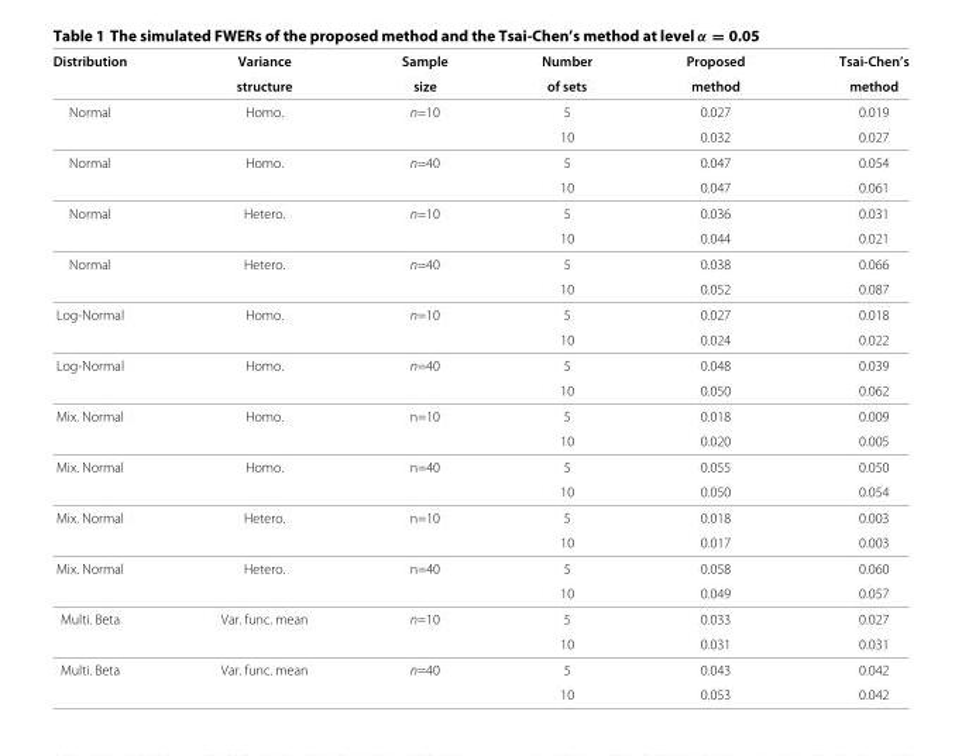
<table><thead><tr><td rowspan="2">Distribution</td><td rowspan="2">Variance structure</td><td rowspan="2">Sample size</td><td rowspan="2">Number of sets</td><td rowspan="2">Proposed method</td><td rowspan="2">Tsai-Chen’s method</td></tr><tr></tr></thead><tbody><tr><td rowspan="2">Normal</td><td>Homo.</td><td>n=10</td><td>5</td><td>0.027</td><td>0.019</td></tr><tr><td></td><td></td><td>10</td><td>0.032</td><td>0.027</td></tr><tr><td rowspan="2">Normal</td><td>Homo.</td><td>n=40</td><td>5</td><td>0.047</td><td>0.054</td></tr><tr><td></td><td></td><td>10</td><td>0.047</td><td>0.061</td></tr><tr><td rowspan="2">Normal</td><td>Hetero.</td><td>n=10</td><td>5</td><td>0.036</td><td>0.031</td></tr><tr><td></td><td></td><td>10</td><td>0.044</td><td>0.021</td></tr><tr><td rowspan="2">Normal</td><td>Hetero.</td><td>n=40</td><td>5</td><td>0.038</td><td>0.066</td></tr><tr><td></td><td></td><td>10</td><td>0.052</td><td>0.087</td></tr><tr><td rowspan="2">Log-Normal</td><td>Homo.</td><td>n=10</td><td>5</td><td>0.027</td><td>0.018</td></tr><tr><td></td><td></td><td>10</td><td>0.024</td><td>0.022</td></tr><tr><td rowspan="2">Log-Normal</td><td>Homo.</td><td>n=40</td><td>5</td><td>0.048</td><td>0.039</td></tr><tr><td></td><td></td><td>10</td><td>0.050</td><td>0.062</td></tr><tr><td rowspan="2">Mix. Normal</td><td>Homo.</td><td>n=10</td><td>5</td><td>0.018</td><td>0.009</td></tr><tr><td></td><td></td><td>10</td><td>0.020</td><td>0.005</td></tr><tr><td rowspan="2">Mix. Normal</td><td>Homo.</td><td>n=40</td><td>5</td><td>0.055</td><td>0.050</td></tr><tr><td></td><td></td><td>10</td><td>0.050</td><td>0.054</td></tr><tr><td rowspan="2">Mix. Normal</td><td>Hetero.</td><td>n=10</td><td>5</td><td>0.018</td><td>0.003</td></tr><tr><td></td><td></td><td>10</td><td>0.017</td><td>0.003</td></tr><tr><td rowspan="2">Mix. Normal</td><td>Hetero.</td><td>n=40</td><td>5</td><td>0.058</td><td>0.060</td></tr><tr><td></td><td></td><td>10</td><td>0.049</td><td>0.057</td></tr><tr><td rowspan="2">Multi. Beta</td><td>Var. func. mean</td><td>n=10</td><td>5</td><td>0.033</td><td>0.027</td></tr><tr><td></td><td></td><td>10</td><td>0.031</td><td>0.031</td></tr><tr><td rowspan="2">Multi. Beta</td><td>Var. func. mean</td><td>n=40</td><td>5</td><td>0.043</td><td>0.042</td></tr><tr><td></td><td></td><td>10</td><td>0.053</td><td>0.042</td></tr></tbody></table>